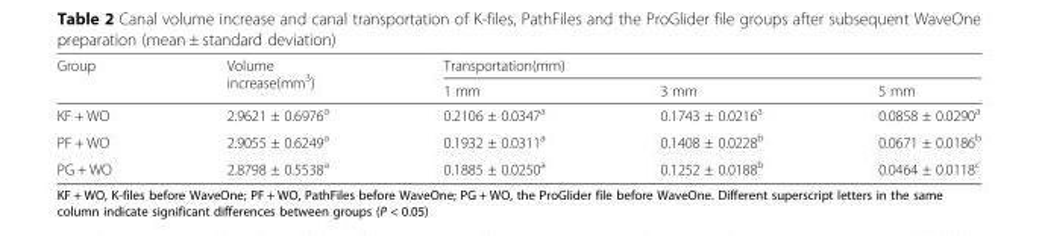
<table><thead><tr><td rowspan="2">Group</td><td rowspan="2">Volume increase(mm<sup>3</sup>)</td><td colspan="3">Transportation(mm)</td></tr><tr><td>1 mm</td><td>3 mm</td><td>5 mm</td></tr></thead><tbody><tr><td>KF + WO</td><td>2.9621 ± 0.6976<sup>a</sup></td><td>0.2106 ± 0.0347<sup>a</sup></td><td>0.1743 ± 0.0216<sup>a</sup></td><td>0.0858 ± 0.0290<sup>a</sup></td></tr><tr><td>PF + WO</td><td>2.9055 ± 0.6249<sup>a</sup></td><td>0.1932 ± 0.0311<sup>a</sup></td><td>0.1408 ± 0.0228<sup>b</sup></td><td>0.0671 ± 0.0186<sup>b</sup></td></tr><tr><td>PG + WO</td><td>2.8798 ± 0.5538<sup>a</sup></td><td>0.1885 ± 0.0250<sup>a</sup></td><td>0.1252 ± 0.0188<sup>b</sup></td><td>0.0464 ± 0.0118<sup>c</sup></td></tr></tbody></table>